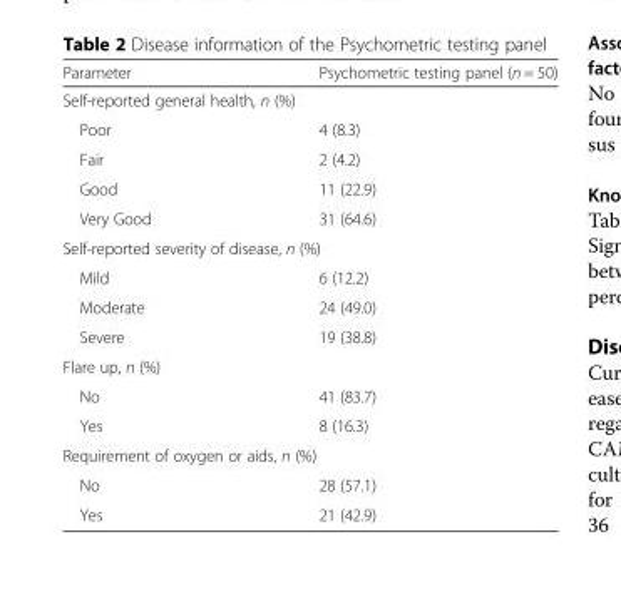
<table><thead><tr><td>Parameter</td><td>Psychometric testing panel (n = 50)</td></tr></thead><tbody><tr><td colspan="2">Self-reported general health, n (%)</td></tr><tr><td>Poor</td><td>4 (8.3)</td></tr><tr><td>Fair</td><td>2 (4.2)</td></tr><tr><td>Good</td><td>11 (22.9)</td></tr><tr><td>Very Good</td><td>31 (64.6)</td></tr><tr><td colspan="2">Self-reported severity of disease, n (%)</td></tr><tr><td>Mild</td><td>6 (12.2)</td></tr><tr><td>Moderate</td><td>24 (49.0)</td></tr><tr><td>Severe</td><td>19 (38.8)</td></tr><tr><td colspan="2">Flare up, n (%)</td></tr><tr><td>No</td><td>41 (83.7)</td></tr><tr><td>Yes</td><td>8 (16.3)</td></tr><tr><td colspan="2">Requirement of oxygen or aids, n (%)</td></tr><tr><td>No</td><td>28 (57.1)</td></tr><tr><td>Yes</td><td>21 (42.9)</td></tr></tbody></table>